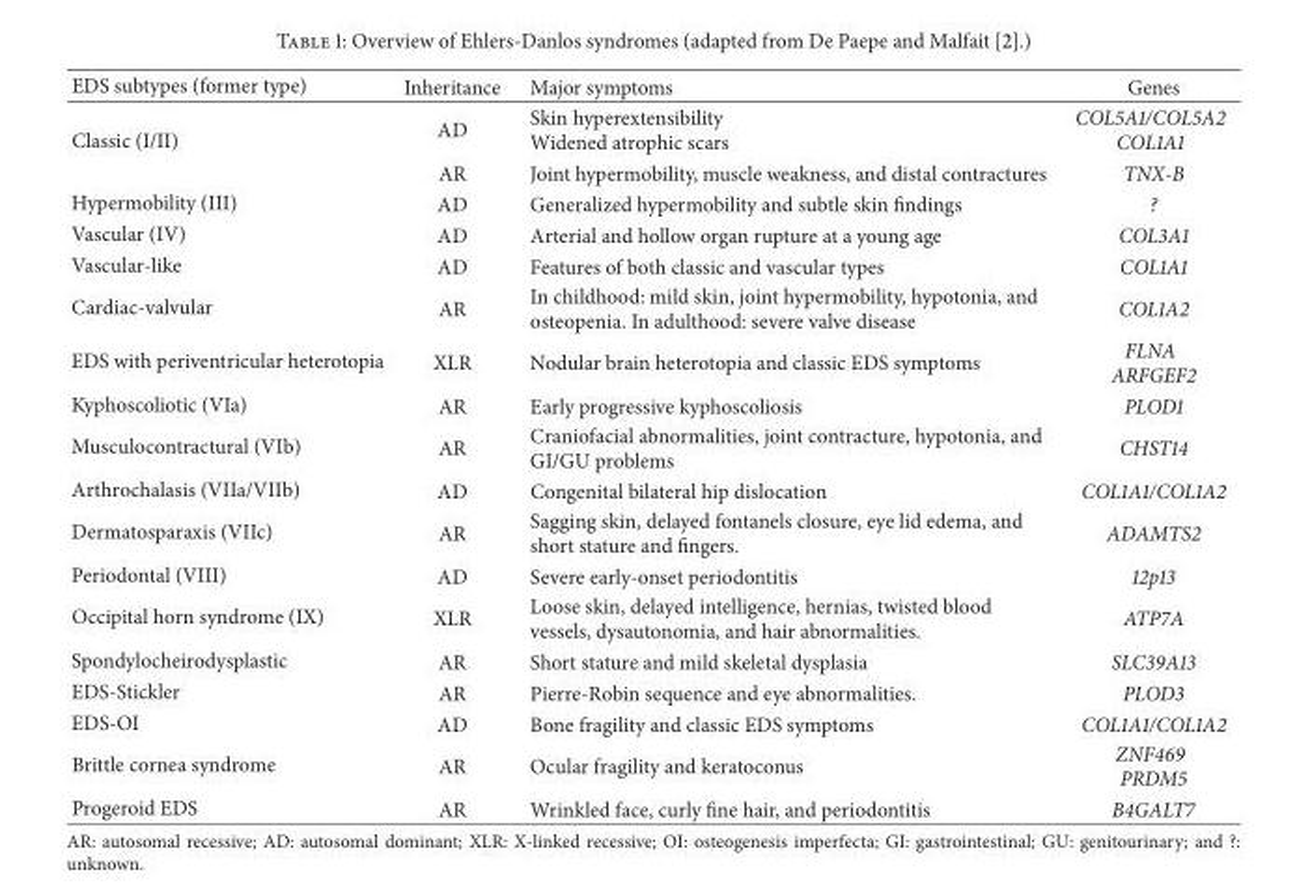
<table><thead><tr><td>EDS subtypes (former type)</td><td>Inheritance</td><td>Major symptoms</td><td>Genes</td></tr></thead><tbody><tr><td rowspan="2">Classic (I/II)</td><td>AD</td><td>Skin hyperextensibility Widened atrophic scars</td><td>COL5A1/COL5A2 COL1A1</td></tr><tr><td>AR</td><td>Joint hypermobility, muscle weakness, and distal contractures</td><td>TNX-B</td></tr><tr><td>Hypermobility (III)</td><td>AD</td><td>Generalized hypermobility and subtle skin findings</td><td>?</td></tr><tr><td>Vascular (IV)</td><td>AD</td><td>Arterial and hollow organ rupture at a young age</td><td>COL3A1</td></tr><tr><td>Vascular-like</td><td>AD</td><td>Features of both classic and vascular types</td><td>COL1A1</td></tr><tr><td>Cardiac-valvular</td><td>AR</td><td>In childhood: mild skin, joint hypermobility, hypotonia, and osteopenia. In adulthood: severe valve disease</td><td>COL1A2</td></tr><tr><td>EDS with periventricular heterotopia</td><td>XLR</td><td>Nodular brain heterotopia and classic EDS symptoms</td><td>FLNA ARFGEF2</td></tr><tr><td>Kyphoscoliotic (VIa)</td><td>AR</td><td>Early progressive kyphoscoliosis</td><td>PLOD1</td></tr><tr><td>Musculocontractural (VIb)</td><td>AR</td><td>Craniofacial abnormalities, joint contracture, hypotonia, and GI/GU problems</td><td>CHST14</td></tr><tr><td>Arthrochalasis (VIIa/VIIb)</td><td>AD</td><td>Congenital bilateral hip dislocation</td><td>COL1A1/COL1A2</td></tr><tr><td>Dermatosparaxis (VIIc)</td><td>AR</td><td>Sagging skin, delayed fontanels closure, eye lid edema, and short stature and fingers.</td><td>ADAMTS2</td></tr><tr><td>Periodontal (VIII)</td><td>AD</td><td>Severe early-onset periodontitis</td><td>12p13</td></tr><tr><td>Occipital horn syndrome (IX)</td><td>XLR</td><td>Loose skin, delayed intelligence, hernias, twisted blood vessels, dysautonomia, and hair abnormalities.</td><td>ATP7A</td></tr><tr><td>Spondylocheirodysplastic</td><td>AR</td><td>Short stature and mild skeletal dysplasia</td><td>SLC39A13</td></tr><tr><td>EDS-Stickler</td><td>AR</td><td>Pierre-Robin sequence and eye abnormalities.</td><td>PLOD3</td></tr><tr><td>EDS-OI</td><td>AD</td><td>Bone fragility and classic EDS symptoms</td><td>COL1A1/COL1A2</td></tr><tr><td>Brittle cornea syndrome</td><td>AR</td><td>Ocular fragility and keratoconus</td><td>ZNF469 PRDM5</td></tr><tr><td>Progeroid EDS</td><td>AR</td><td>Wrinkled face, curly fine hair, and periodontitis</td><td>B4GALT7</td></tr></tbody></table>